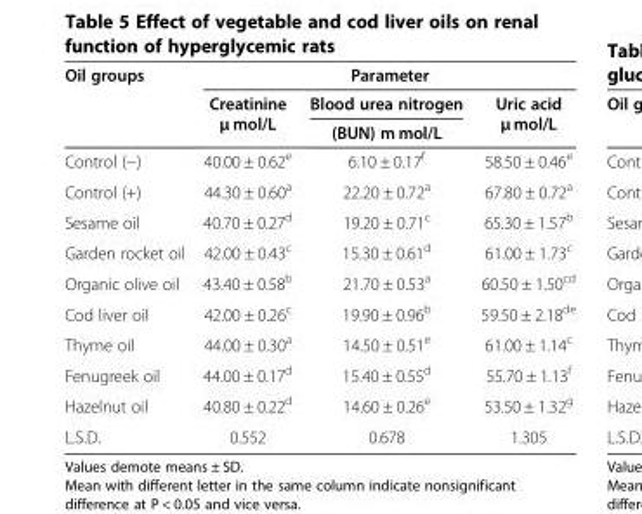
<table><thead><tr><td rowspan="3">Oil groups</td><td colspan="3">Parameter</td></tr><tr><td rowspan="2">Creatinine μ mol/L</td><td rowspan="2">Blood urea nitrogen (BUN) m mol/L</td><td rowspan="2">Uric acid μ mol/L</td></tr><tr></tr></thead><tbody><tr><td>Control (−)</td><td>40.00 ± 0.62<sup>e</sup></td><td>6.10 ± 0.17<sup>f</sup></td><td>58.50 ± 0.46<sup>e</sup></td></tr><tr><td>Control (+)</td><td>44.30 ± 0.60<sup>a</sup></td><td>22.20 ± 0.72<sup>a</sup></td><td>67.80 ± 0.72<sup>a</sup></td></tr><tr><td>Sesame oil</td><td>40.70 ± 0.27<sup>d</sup></td><td>19.20 ± 0.71<sup>c</sup></td><td>65.30 ± 1.57<sup>b</sup></td></tr><tr><td>Garden rocket oil</td><td>42.00 ± 0.43<sup>c</sup></td><td>15.30 ± 0.61<sup>d</sup></td><td>61.00 ± 1.73<sup>c</sup></td></tr><tr><td>Organic olive oil</td><td>43.40 ± 0.58<sup>b</sup></td><td>21.70 ± 0.53<sup>a</sup></td><td>60.50 ± 1.50<sup>cd</sup></td></tr><tr><td>Cod liver oil</td><td>42.00 ± 0.26<sup>c</sup></td><td>19.90 ± 0.96<sup>b</sup></td><td>59.50 ± 2.18<sup>de</sup></td></tr><tr><td>Thyme oil</td><td>44.00 ± 0.30<sup>a</sup></td><td>14.50 ± 0.51<sup>e</sup></td><td>61.00 ± 1.14<sup>c</sup></td></tr><tr><td>Fenugreek oil</td><td>44.00 ± 0.17<sup>d</sup></td><td>15.40 ± 0.55<sup>d</sup></td><td>55.70 ± 1.13<sup>f</sup></td></tr><tr><td>Hazelnut oil</td><td>40.80 ± 0.22<sup>d</sup></td><td>14.60 ± 0.26<sup>e</sup></td><td>53.50 ± 1.32<sup>g</sup></td></tr><tr><td>L.S.D.</td><td>0.552</td><td>0.678</td><td>1.305</td></tr></tbody></table>